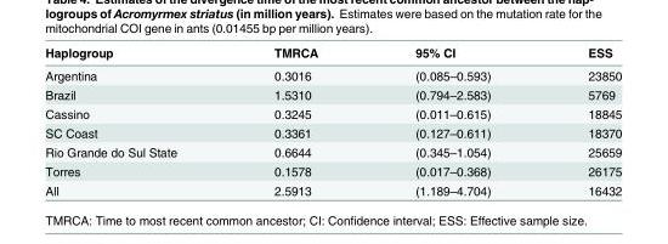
<table><thead><tr><td>Haplogroup</td><td>TMRCA</td><td>95% CI</td><td>ESS</td></tr></thead><tbody><tr><td>Argentina</td><td>0.3016</td><td>(0.085–0.593)</td><td>23850</td></tr><tr><td>Brazil</td><td>1.5310</td><td>(0.794–2.583)</td><td>5769</td></tr><tr><td>Cassino</td><td>0.3245</td><td>(0.011–0.615)</td><td>18845</td></tr><tr><td>SC Coast</td><td>0.3361</td><td>(0.127–0.611)</td><td>18370</td></tr><tr><td>Rio Grande do Sul State</td><td>0.6644</td><td>(0.345–1.054)</td><td>25659</td></tr><tr><td>Torres</td><td>0.1578</td><td>(0.017–0.368)</td><td>26175</td></tr><tr><td>All</td><td>2.5913</td><td>(1.189–4.704)</td><td>16432</td></tr></tbody></table>